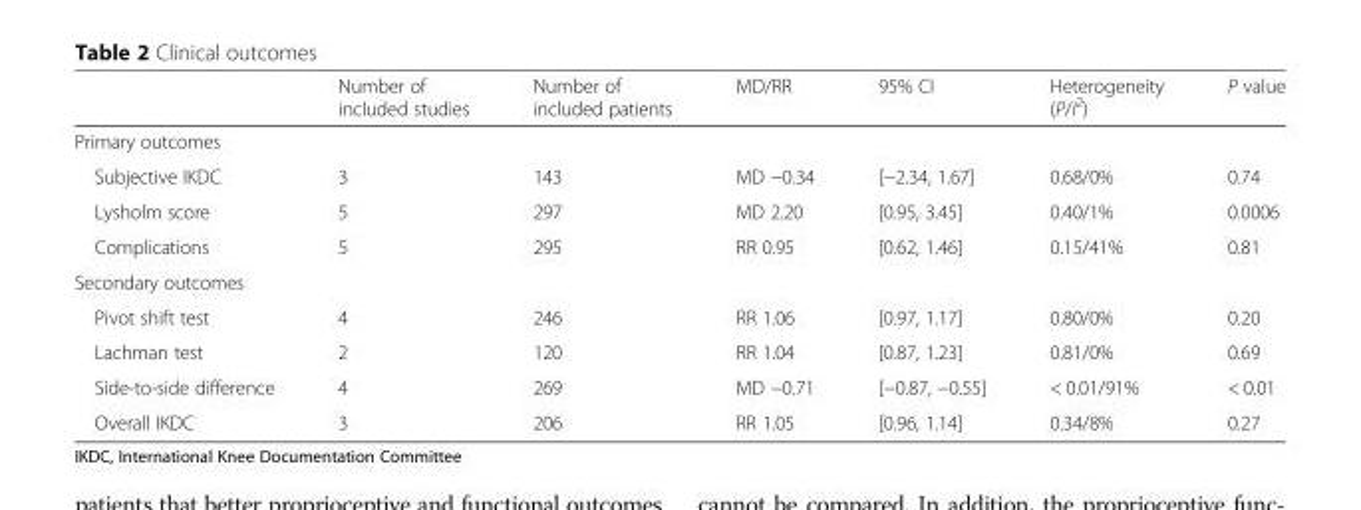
<table><thead><tr><td></td><td>Number of included studies</td><td>Number of included patients</td><td>MD/RR</td><td>95% CI</td><td>Heterogeneity (P/I<sup>2</sup>)</td><td>P value</td></tr></thead><tbody><tr><td colspan="7">Primary outcomes</td></tr><tr><td>Subjective IKDC</td><td>3</td><td>143</td><td>MD −0.34</td><td>[−2.34, 1.67]</td><td>0.68/0%</td><td>0.74</td></tr><tr><td>Lysholm score</td><td>5</td><td>297</td><td>MD 2.20</td><td>[0.95, 3.45]</td><td>0.40/1%</td><td>0.0006</td></tr><tr><td>Complications</td><td>5</td><td>295</td><td>RR 0.95</td><td>[0.62, 1.46]</td><td>0.15/41%</td><td>0.81</td></tr><tr><td colspan="7">Secondary outcomes</td></tr><tr><td>Pivot shift test</td><td>4</td><td>246</td><td>RR 1.06</td><td>[0.97, 1.17]</td><td>0.80/0%</td><td>0.20</td></tr><tr><td>Lachman test</td><td>2</td><td>120</td><td>RR 1.04</td><td>[0.87, 1.23]</td><td>0.81/0%</td><td>0.69</td></tr><tr><td>Side-to-side difference</td><td>4</td><td>269</td><td>MD −0.71</td><td>[−0.87, −0.55]</td><td>&lt; 0.01/91%</td><td>&lt; 0.01</td></tr><tr><td>Overall IKDC</td><td>3</td><td>206</td><td>RR 1.05</td><td>[0.96, 1.14]</td><td>0.34/8%</td><td>0.27</td></tr></tbody></table>